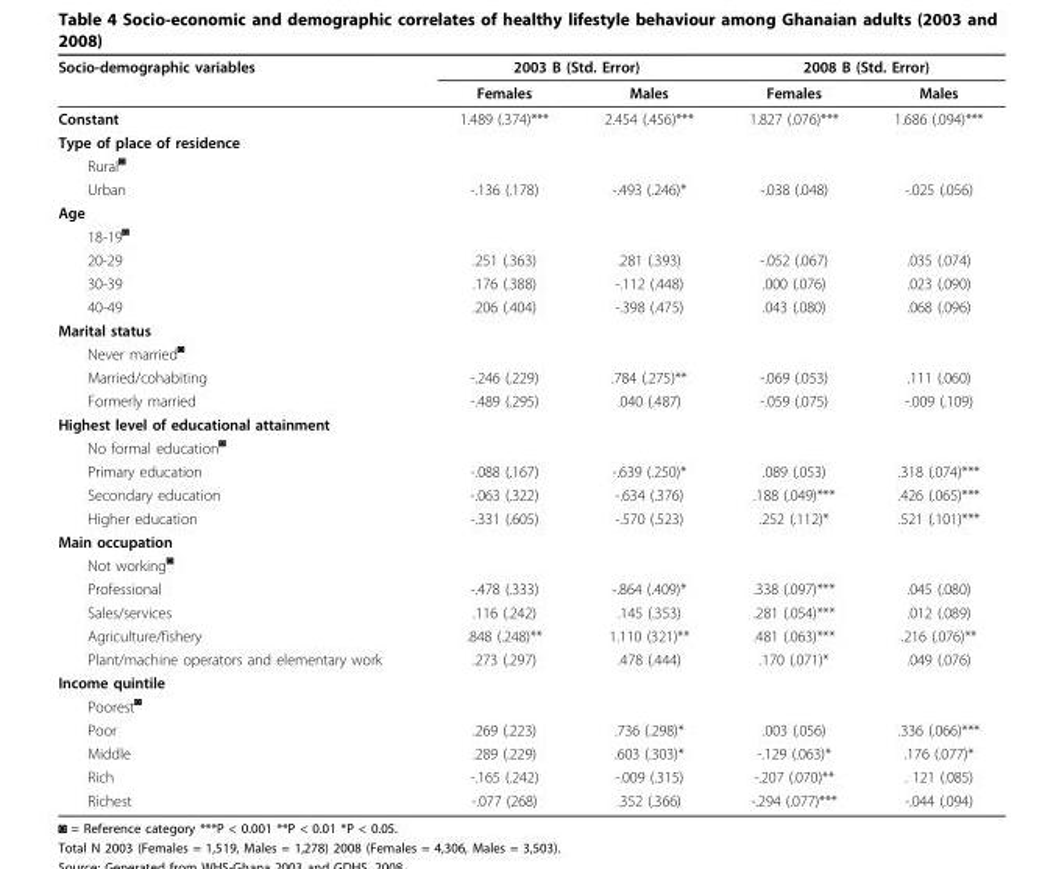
<table><thead><tr><td rowspan="2">Socio-demographic variables</td><td colspan="2">2003 B (Std. Error)</td><td colspan="2">2008 B (Std. Error)</td></tr><tr><td>Females</td><td>Males</td><td>Females</td><td>Males</td></tr></thead><tbody><tr><td>Constant</td><td>1.489 (.374)***</td><td>2.454 (.456)***</td><td>1.827 (.076)***</td><td>1.686 (.094)***</td></tr><tr><td colspan="5">Type of place of residence</td></tr><tr><td colspan="5">Rural<sup>◙</sup></td></tr><tr><td>Urban</td><td>-.136 (.178)</td><td>-.493 (.246)*</td><td>-.038 (.048)</td><td>-.025 (.056)</td></tr><tr><td colspan="5">Age</td></tr><tr><td colspan="5">18-19<sup>◙</sup></td></tr><tr><td>20-29</td><td>.251 (.363)</td><td>.281 (.393)</td><td>-.052 (.067)</td><td>.035 (.074)</td></tr><tr><td>30-39</td><td>.176 (.388)</td><td>-.112 (.448)</td><td>.000 (.076)</td><td>.023 (.090)</td></tr><tr><td>40-49</td><td>.206 (.404)</td><td>-.398 (.475)</td><td>.043 (.080)</td><td>.068 (.096)</td></tr><tr><td colspan="5">Marital status</td></tr><tr><td colspan="5">Never married<sup>◙</sup></td></tr><tr><td>Married/cohabiting</td><td>-.246 (.229)</td><td>.784 (.275)**</td><td>-.069 (.053)</td><td>.111 (.060)</td></tr><tr><td>Formerly married</td><td>-.489 (.295)</td><td>.040 (.487)</td><td>-.059 (.075)</td><td>-.009 (.109)</td></tr><tr><td colspan="5">Highest level of educational attainment</td></tr><tr><td colspan="5">No formal education<sup>◙</sup></td></tr><tr><td>Primary education</td><td>-.088 (.167)</td><td>-.639 (.250)*</td><td>.089 (.053)</td><td>.318 (.074)***</td></tr><tr><td>Secondary education</td><td>-.063 (.322)</td><td>-.634 (.376)</td><td>.188 (.049)***</td><td>.426 (.065)***</td></tr><tr><td>Higher education</td><td>-.331 (.605)</td><td>-.570 (.523)</td><td>.252 (.112)*</td><td>.521 (.101)***</td></tr><tr><td colspan="5">Main occupation</td></tr><tr><td colspan="5">Not working<sup>◙</sup></td></tr><tr><td>Professional</td><td>-.478 (.333)</td><td>-.864 (.409)*</td><td>.338 (.097)***</td><td>.045 (.080)</td></tr><tr><td>Sales/services</td><td>.116 (.242)</td><td>.145 (.353)</td><td>.281 (.054)***</td><td>.012 (.089)</td></tr><tr><td>Agriculture/fishery</td><td>.848 (.248)**</td><td>1.110 (321)**</td><td>.481 (.063)***</td><td>.216 (.076)**</td></tr><tr><td>Plant/machine operators and elementary work</td><td>.273 (.297)</td><td>.478 (.444)</td><td>.170 (.071)*</td><td>.049 (.076)</td></tr><tr><td colspan="5">Income quintile</td></tr><tr><td colspan="5">Poorest<sup>◙</sup></td></tr><tr><td>Poor</td><td>.269 (.223)</td><td>.736 (.298)*</td><td>.003 (.056)</td><td>.336 (.066)***</td></tr><tr><td>Middle</td><td>.289 (.229)</td><td>.603 (.303)*</td><td>-.129 (.063)*</td><td>.176 (.077)*</td></tr><tr><td>Rich</td><td>-.165 (.242)</td><td>-.009 (.315)</td><td>-.207 (.070)**</td><td>. 121 (.085)</td></tr><tr><td>Richest</td><td>-.077 (268)</td><td>.352 (.366)</td><td>-.294 (.077)***</td><td>-.044 (.094)</td></tr></tbody></table>